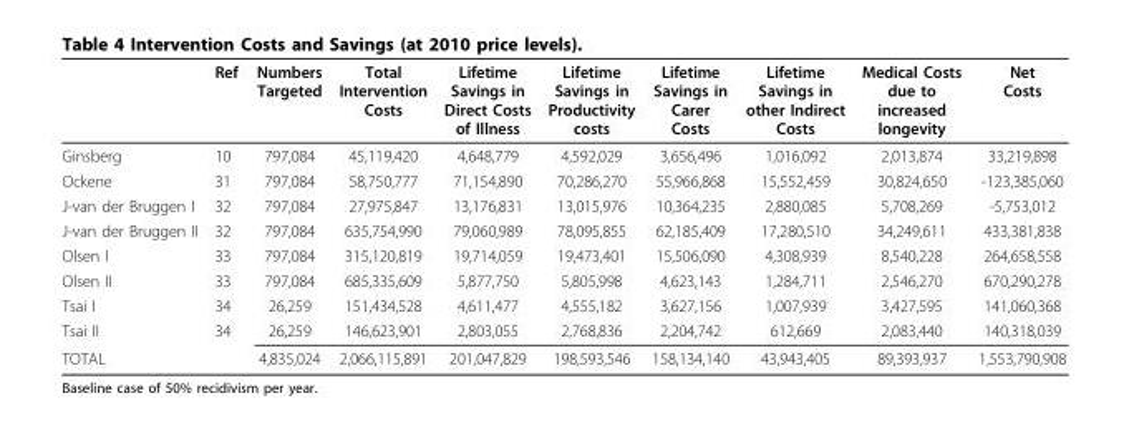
<table><thead><tr><td></td><td>Ref</td><td>Numbers Targeted</td><td>Total Intervention Costs</td><td>Lifetime Savings in Direct Costs of Illness</td><td>Lifetime Savings in Productivity costs</td><td>Lifetime Savings in Carer Costs</td><td>Lifetime Savings in other Indirect Costs</td><td>Medical Costs due to increased longevity</td><td>Net Costs</td></tr></thead><tbody><tr><td>Ginsberg</td><td>10</td><td>797,084</td><td>45,119,420</td><td>4,648,779</td><td>4,592,029</td><td>3,656,496</td><td>1,016,092</td><td>2,013,874</td><td>33,219,898</td></tr><tr><td>Ockene</td><td>31</td><td>797,084</td><td>58,750,777</td><td>71,154,890</td><td>70,286,270</td><td>55,966,868</td><td>15,552,459</td><td>30,824,650</td><td>-123,385,060</td></tr><tr><td>J-van der Bruggen I</td><td>32</td><td>797,084</td><td>27,975,847</td><td>13,176,831</td><td>13,015,976</td><td>10,364,235</td><td>2,880,085</td><td>5,708,269</td><td>-5,753,012</td></tr><tr><td>J-van der Bruggen II</td><td>32</td><td>797,084</td><td>635,754,990</td><td>79,060,989</td><td>78,095,855</td><td>62,185,409</td><td>17,280,510</td><td>34,249,611</td><td>433,381,838</td></tr><tr><td>Olsen I</td><td>33</td><td>797,084</td><td>315,120,819</td><td>19,714,059</td><td>19,473,401</td><td>15,506,090</td><td>4,308,939</td><td>8,540,228</td><td>264,658,558</td></tr><tr><td>Olsen II</td><td>33</td><td>797,084</td><td>685,335,609</td><td>5,877,750</td><td>5,805,998</td><td>4,623,143</td><td>1,284,711</td><td>2,546,270</td><td>670,290,278</td></tr><tr><td>Tsai I</td><td>34</td><td>26,259</td><td>151,434,528</td><td>4,611,477</td><td>4,555,182</td><td>3,627,156</td><td>1,007,939</td><td>3,427,595</td><td>141,060,368</td></tr><tr><td>Tsai II</td><td>34</td><td>26,259</td><td>146,623,901</td><td>2,803,055</td><td>2,768,836</td><td>2,204,742</td><td>612,669</td><td>2,083,440</td><td>140,318,039</td></tr><tr><td>TOTAL</td><td></td><td>4,835,024</td><td>2,066,115,891</td><td>201,047,829</td><td>198,593,546</td><td>158,134,140</td><td>43,943,405</td><td>89,393,937</td><td>1,553,790,908</td></tr></tbody></table>